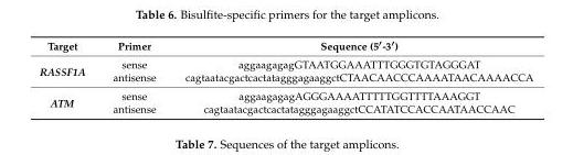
<table><thead><tr><td>Target</td><td>Primer</td><td>Sequence (5′-3′)</td></tr></thead><tbody><tr><td rowspan="2">RASSF1A</td><td>sense</td><td>aggaagagagGTAATGGAAATTTGGGTGTAGGGAT</td></tr><tr><td>antisense</td><td>cagtaatacgactcactatagggagaaggctCTAACAACCCAAAATAACAAAACCA</td></tr><tr><td rowspan="2">ATM</td><td>sense</td><td>aggaagagagAGGGAAAATTTTTGGTTTTAAAGGT</td></tr><tr><td>antisense</td><td>cagtaatacgactcactatagggagaaggctCCATATCCACCAATAACCAAC</td></tr></tbody></table>